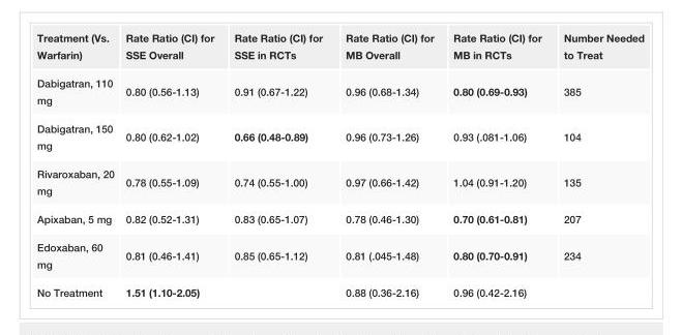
<table><tbody><tr><td>Treatment (Vs. Warfarin)</td><td>Rate Ratio (CI) for SSE Overall</td><td>Rate Ratio (CI) for SSE in RCTs</td><td>Rate Ratio (CI) for MB Overall</td><td>Rate Ratio (CI) for MB in RCTs</td><td>Number Needed to Treat</td></tr><tr><td>Dabigatran, 110 mg</td><td>0.80 (0.56-1.13)</td><td>0.91 (0.67-1.22)</td><td>0.96 (0.68-1.34)</td><td>0.80 (0.69-0.93)</td><td>385</td></tr><tr><td>Dabigatran, 150 mg</td><td>0.80 (0.62-1.02)</td><td>0.66 (0.48-0.89)</td><td>0.96 (0.73-1.26)</td><td>0.93 (.081-1.06)</td><td>104</td></tr><tr><td>Rivaroxaban, 20 mg</td><td>0.78 (0.55-1.09)</td><td>0.74 (0.55-1.00)</td><td>0.97 (0.66-1.42)</td><td>1.04 (0.91-1.20)</td><td>135</td></tr><tr><td>Apixaban, 5 mg</td><td>0.82 (0.52-1.31)</td><td>0.83 (0.65-1.07)</td><td>0.78 (0.46-1.30)</td><td>0.70 (0.61-0.81)</td><td>207</td></tr><tr><td>Edoxaban, 60 mg</td><td>0.81 (0.46-1.41)</td><td>0.85 (0.65-1.12)</td><td>0.81 (.045-1.48)</td><td>0.80 (0.70-0.91)</td><td>234</td></tr><tr><td>No Treatment</td><td>1.51 (1.10-2.05)</td><td></td><td>0.88 (0.36-2.16)</td><td>0.96 (0.42-2.16)</td><td></td></tr></tbody></table>